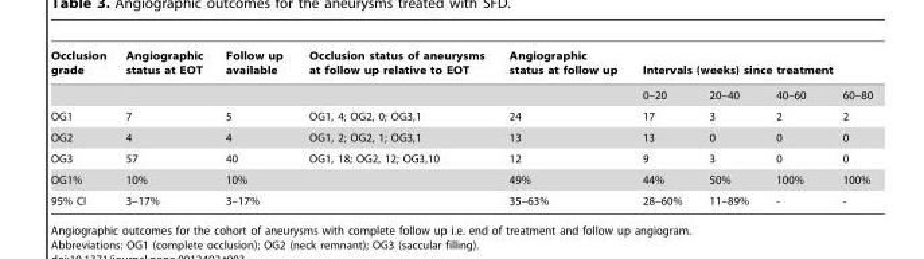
<table><thead><tr><td rowspan="2">Occlusion grade</td><td rowspan="2">Angiographic status at EOT</td><td rowspan="2">Follow up available</td><td rowspan="2">Occlusion status of aneurysms at follow up relative to EOT</td><td rowspan="2">Angiographic status at follow up</td><td colspan="4">Intervals (weeks) since treatment</td></tr><tr><td>0–20</td><td>20–40</td><td>40–60</td><td>60–80</td></tr></thead><tbody><tr><td>OG1</td><td>7</td><td>5</td><td>OG1, 4; OG2, 0; OG3,1</td><td>24</td><td>17</td><td>3</td><td>2</td><td>2</td></tr><tr><td>OG2</td><td>4</td><td>4</td><td>OG1, 2; OG2, 1; OG3,1</td><td>13</td><td>13</td><td>0</td><td>0</td><td>0</td></tr><tr><td>OG3</td><td>57</td><td>40</td><td>OG1, 18; OG2, 12; OG3,10</td><td>12</td><td>9</td><td>3</td><td>0</td><td>0</td></tr><tr><td>OG1%</td><td>10%</td><td>10%</td><td></td><td>49%</td><td>44%</td><td>50%</td><td>100%</td><td>100%</td></tr><tr><td>95% CI</td><td>3–17%</td><td>3–17%</td><td></td><td>35–63%</td><td>28–60%</td><td>11–89%</td><td>-</td><td>-</td></tr></tbody></table>